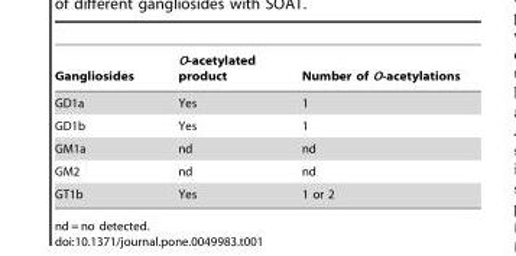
<table><thead><tr><td>Gangliosides</td><td>O-acetylated product</td><td>Number of O-acetylations</td></tr></thead><tbody><tr><td>GD1a</td><td>Yes</td><td>1</td></tr><tr><td>GD1b</td><td>Yes</td><td>1</td></tr><tr><td>GM1a</td><td>nd</td><td>nd</td></tr><tr><td>GM2</td><td>nd</td><td>nd</td></tr><tr><td>GT1b</td><td>Yes</td><td>1 or 2</td></tr></tbody></table>